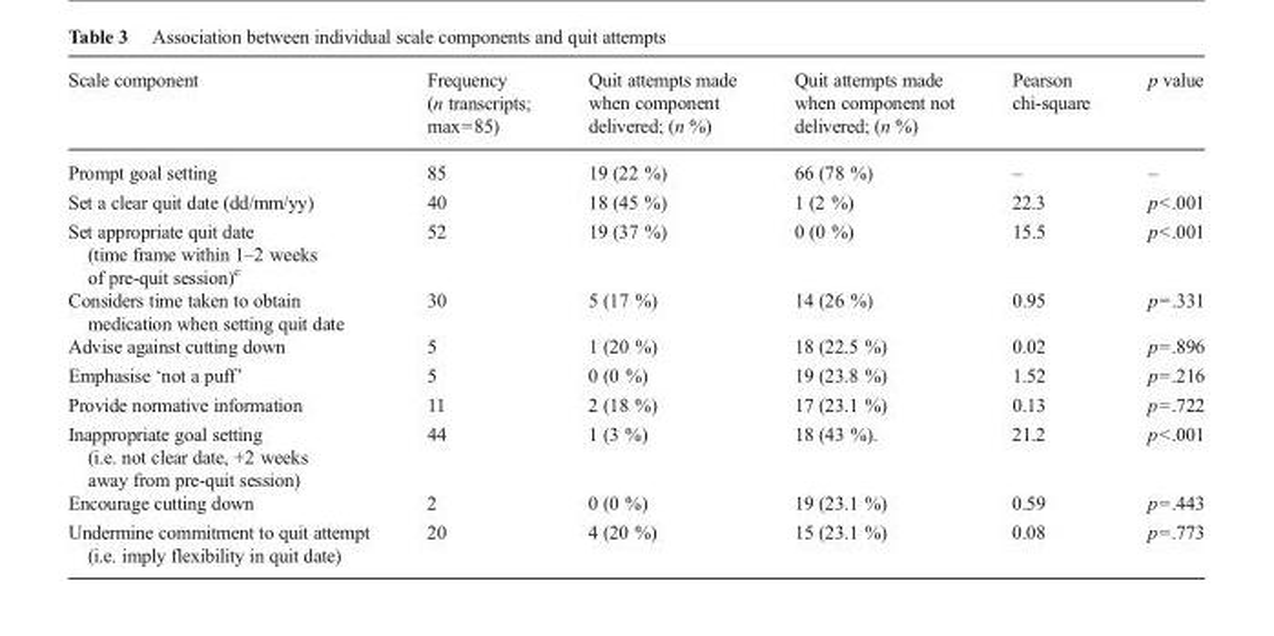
<table><thead><tr><td>Scale component</td><td>Frequency (n transcripts; max=85)</td><td>Quit attempts made when component delivered; (n %)</td><td>Quit attempts made when component not delivered; (n %)</td><td>Pearson chi-square</td><td>p value</td></tr></thead><tbody><tr><td>Prompt goal setting</td><td>85</td><td>19 (22 %)</td><td>66 (78 %)</td><td>–</td><td>–</td></tr><tr><td>Set a clear quit date (dd/mm/yy)</td><td>40</td><td>18 (45 %)</td><td>1 (2 %)</td><td>22.3</td><td>p&lt;.001</td></tr><tr><td>Set appropriate quit date (time frame within 1–2 weeks of pre-quit session)<sup>c</sup></td><td>52</td><td>19 (37 %)</td><td>0 (0 %)</td><td>15.5</td><td>p&lt;.001</td></tr><tr><td>Considers time taken to obtain medication when setting quit date</td><td>30</td><td>5 (17 %)</td><td>14 (26 %)</td><td>0.95</td><td>p=.331</td></tr><tr><td>Advise against cutting down</td><td>5</td><td>1 (20 %)</td><td>18 (22.5 %)</td><td>0.02</td><td>p=.896</td></tr><tr><td>Emphasise ‘not a puff’</td><td>5</td><td>0 (0 %)</td><td>19 (23.8 %)</td><td>1.52</td><td>p=.216</td></tr><tr><td>Provide normative information</td><td>11</td><td>2 (18 %)</td><td>17 (23.1 %)</td><td>0.13</td><td>p=.722</td></tr><tr><td>Inappropriate goal setting (i.e. not clear date, +2 weeks away from pre-quit session)</td><td>44</td><td>1 (3 %)</td><td>18 (43 %).</td><td>21.2</td><td>p&lt;.001</td></tr><tr><td>Encourage cutting down</td><td>2</td><td>0 (0 %)</td><td>19 (23.1 %)</td><td>0.59</td><td>p=.443</td></tr><tr><td>Undermine commitment to quit attempt (i.e. imply flexibility in quit date)</td><td>20</td><td>4 (20 %)</td><td>15 (23.1 %)</td><td>0.08</td><td>p=.773</td></tr></tbody></table>